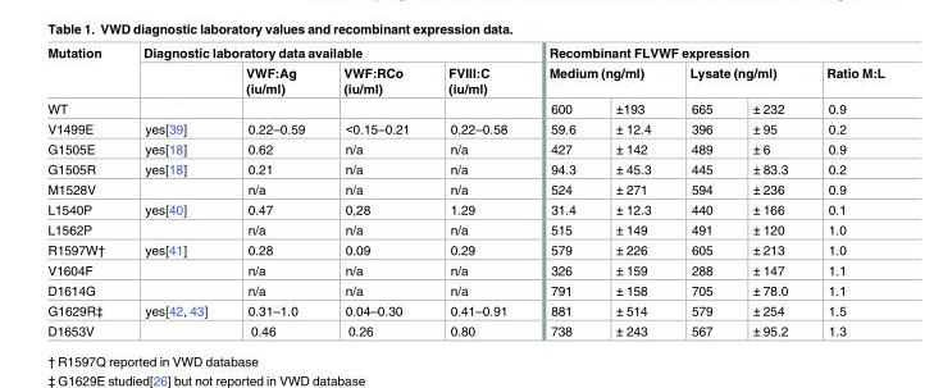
<table><thead><tr><td rowspan="3">Mutation WT</td><td colspan="4">Diagnostic laboratory data available</td><td colspan="5">Recombinant FLVWF expression</td></tr><tr><td rowspan="2"></td><td rowspan="2">VWF:Ag (iu/ml)</td><td rowspan="2">VWF:RCo (iu/ml)</td><td rowspan="2">FVIII:C (iu/ml)</td><td colspan="2">Medium (ng/ml)</td><td colspan="2">Lysate (ng/ml)</td><td rowspan="2">Ratio M:L 0.9</td></tr><tr><td>600</td><td>±193</td><td>665</td><td>± 232</td></tr></thead><tbody><tr><td>V1499E</td><td>yes[39]</td><td>0.22–0.59</td><td>&lt;0.15–0.21</td><td>0.22–0.58</td><td>59.6</td><td>± 12.4</td><td>396</td><td>± 95</td><td>0.2</td></tr><tr><td>G1505E</td><td>yes[18]</td><td>0.62</td><td>n/a</td><td>n/a</td><td>427</td><td>± 142</td><td>489</td><td>± 6</td><td>0.9</td></tr><tr><td>G1505R</td><td>yes[18]</td><td>0.21</td><td>n/a</td><td>n/a</td><td>94.3</td><td>± 45.3</td><td>445</td><td>± 83.3</td><td>0.2</td></tr><tr><td>M1528V</td><td></td><td>n/a</td><td>n/a</td><td>n/a</td><td>524</td><td>± 271</td><td>594</td><td>± 236</td><td>0.9</td></tr><tr><td>L1540P</td><td>yes[40]</td><td>0.47</td><td>0,28</td><td>1.29</td><td>31.4</td><td>± 12.3</td><td>440</td><td>± 166</td><td>0.1</td></tr><tr><td>L1562P</td><td></td><td>n/a</td><td>n/a</td><td>n/a</td><td>515</td><td>± 149</td><td>491</td><td>± 120</td><td>1.0</td></tr><tr><td>R1597W†</td><td>yes[41]</td><td>0.28</td><td>0.09</td><td>0.29</td><td>579</td><td>± 226</td><td>605</td><td>± 213</td><td>1.0</td></tr><tr><td>V1604F</td><td></td><td>n/a</td><td>n/a</td><td>n/a</td><td>326</td><td>± 159</td><td>288</td><td>± 147</td><td>1.1</td></tr><tr><td>D1614G</td><td></td><td>n/a</td><td>n/a</td><td>n/a</td><td>791</td><td>± 158</td><td>705</td><td>± 78.0</td><td>1.1</td></tr><tr><td>G1629R‡</td><td>yes[42, 43]</td><td>0.31–1.0</td><td>0.04–0.30</td><td>0.41–0.91</td><td>881</td><td>± 514</td><td>579</td><td>± 254</td><td>1.5</td></tr><tr><td>D1653V</td><td></td><td>0.46</td><td>0.26</td><td>0.80</td><td>738</td><td>± 243</td><td>567</td><td>± 95.2</td><td>1.3</td></tr></tbody></table>